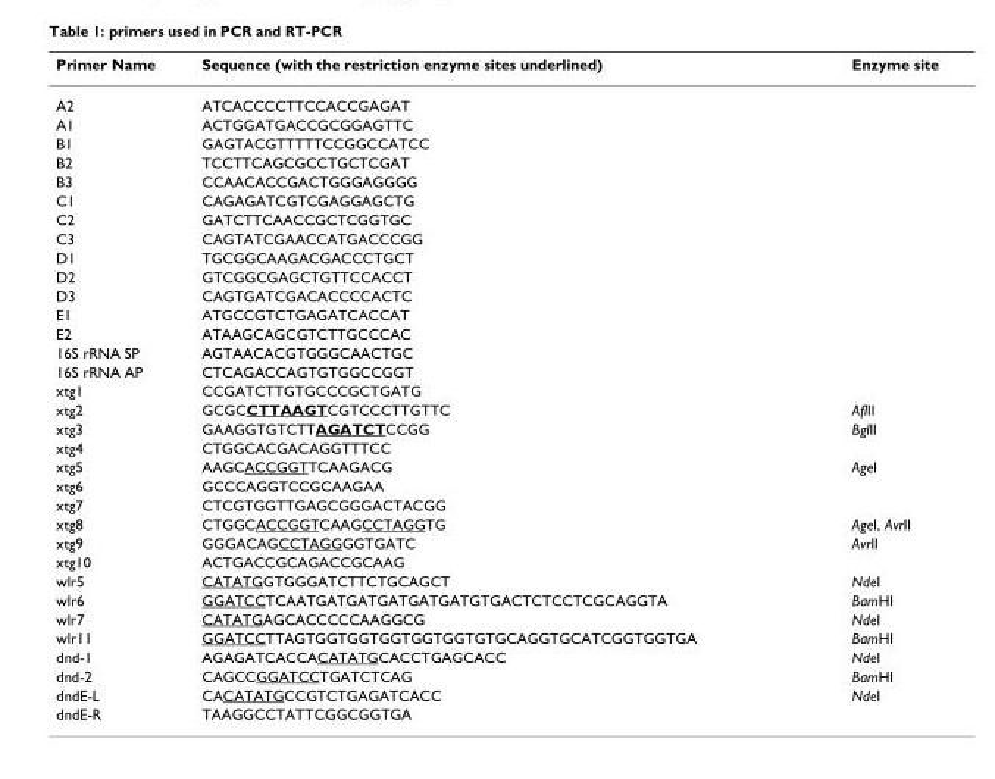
<table><thead><tr><td>Primer Name</td><td>Sequence (with the restriction enzyme sites underlined)</td><td>Enzyme site</td></tr></thead><tbody><tr><td>A2</td><td>ATCACCCCTTCCACCGAGAT</td><td></td></tr><tr><td>A1</td><td>ACTGGATGACCGCGGAGTTC</td><td></td></tr><tr><td>B1</td><td>GAGTACGTTTTTCCGGCCATCC</td><td></td></tr><tr><td>B2</td><td>TCCTTCAGCGCCTGCTCGAT</td><td></td></tr><tr><td>B3</td><td>CCAACACCGACTGGGAGGGG</td><td></td></tr><tr><td>C1</td><td>CAGAGATCGTCGAGGAGCTG</td><td></td></tr><tr><td>C2</td><td>GATCTTCAACCGCTCGGTGC</td><td></td></tr><tr><td>C3</td><td>CAGTATCGAACCATGACCCGG</td><td></td></tr><tr><td>D1</td><td>TGCGGCAAGACGACCCTGCT</td><td></td></tr><tr><td>D2</td><td>GTCGGCGAGCTGTTCCACCT</td><td></td></tr><tr><td>D3</td><td>CAGTGATCGACACCCCACTC</td><td></td></tr><tr><td>E1</td><td>ATGCCGTCTGAGATCACCAT</td><td></td></tr><tr><td>E2</td><td>ATAAGCAGCGTCTTGCCCAC</td><td></td></tr><tr><td>16S rRNA SP</td><td>AGTAACACGTGGGCAACTGC</td><td></td></tr><tr><td>16S rRNA AP</td><td>CTCAGACCAGTGTGGCCGGT</td><td></td></tr><tr><td>xtg1</td><td>CCGATCTTGTGCCCGCTGATG</td><td></td></tr><tr><td>xtg2</td><td>GCGCCTTAAGTCGTCCCTTGTTC</td><td>AflII</td></tr><tr><td>xtg3</td><td>GAAGGTGTCTTAGATCTCCGG</td><td>BglII</td></tr><tr><td>xtg4</td><td>CTGGCACGACAGGTTTCC</td><td></td></tr><tr><td>xtg5</td><td>AAGCACCGGTTCAAGACG</td><td>AgeI</td></tr><tr><td>xtg6</td><td>GCCCAGGTCCGCAAGAA</td><td></td></tr><tr><td>xtg7</td><td>CTCGTGGTTGAGCGGGACTACGG</td><td></td></tr><tr><td>xtg8</td><td>CTGGCACCGGTCAAGCCTAGGTG</td><td>AgeI, AvrII</td></tr><tr><td>xtg9</td><td>GGGACAGCCTAGGGGTGATC</td><td>AvrII</td></tr><tr><td>xtg10</td><td>ACTGACCGCAGACCGCAAG</td><td></td></tr><tr><td>wlr5</td><td>CATATGGTGGGATCTTCTGCAGCT</td><td>NdeI</td></tr><tr><td>wlr6</td><td>GGATCCTCAATGATGATGATGATGATGTGACTCTCCTCGCAGGTA</td><td>BamHI</td></tr><tr><td>wlr7</td><td>CATATGAGCACCCCCAAGGCG</td><td>NdeI</td></tr><tr><td>wlr11</td><td>GGATCCTTAGTGGTGGTGGTGGTGGTGTGCAGGTGCATCGGTGGTGA</td><td>BamHI</td></tr><tr><td>dnd-1</td><td>AGAGATCACCACATATGCACCTGAGCACC</td><td>NdeI</td></tr><tr><td>dnd-2</td><td>CAGCCGGATCCTGATCTCAG</td><td>BamHI</td></tr><tr><td>dndE-L</td><td>CACATATGCCGTCTGAGATCACC</td><td>NdeI</td></tr><tr><td>dndE-R</td><td>TAAGGCCTATTCGGCGGTGA</td><td></td></tr></tbody></table>